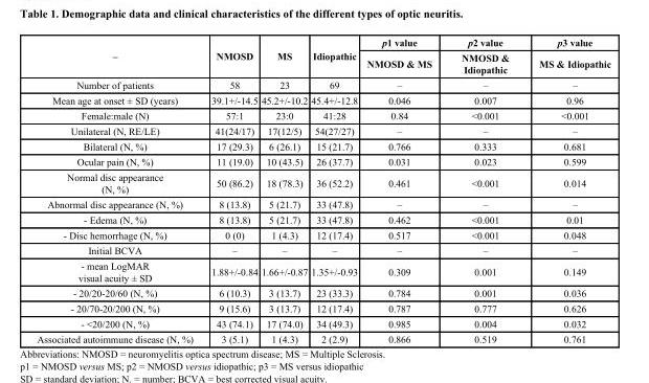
<table><thead><tr><td rowspan="2">–</td><td rowspan="2">NMOSD</td><td rowspan="2">MS</td><td rowspan="2">Idiopathic</td><td rowspan="2">p1 value NMOSD &amp; MS</td><td rowspan="2">p2 value NMOSD &amp; Idiopathic</td><td rowspan="2">p3 value MS &amp; Idiopathic</td></tr><tr></tr></thead><tbody><tr><td>Number of patients</td><td>58</td><td>23</td><td>69</td><td>–</td><td>–</td><td>–</td></tr><tr><td>Mean age at onset ± SD (years)</td><td>39.1+/-14.5</td><td>45.2+/-10.2</td><td>45.4+/-12.8</td><td>0.046</td><td>0.007</td><td>0.96</td></tr><tr><td>Female:male (N)</td><td>57:1</td><td>23:0</td><td>41:28</td><td>0.84</td><td>&lt;0.001</td><td>&lt;0.001</td></tr><tr><td>Unilateral (N, RE/LE)</td><td>41(24/17)</td><td>17(12/5)</td><td>54(27/27)</td><td>–</td><td>–</td><td>–</td></tr><tr><td>Bilateral (N, %)</td><td>17 (29.3)</td><td>6 (26.1)</td><td>15 (21.7)</td><td>0.766</td><td>0.333</td><td>0.681</td></tr><tr><td>Ocular pain (N, %)</td><td>11 (19.0)</td><td>10 (43.5)</td><td>26 (37.7)</td><td>0.031</td><td>0.023</td><td>0.599</td></tr><tr><td>Normal disc appearance (N, %)</td><td>50 (86.2)</td><td>18 (78.3)</td><td>36 (52.2)</td><td>0.461</td><td>&lt;0.001</td><td>0.014</td></tr><tr><td>Abnormal disc appearance (N, %)</td><td>8 (13.8)</td><td>5 (21.7)</td><td>33 (47.8)</td><td>–</td><td>–</td><td>–</td></tr><tr><td>- Edema (N, %)</td><td>8 (13.8)</td><td>5 (21.7)</td><td>33 (47.8)</td><td>0.462</td><td>&lt;0.001</td><td>0.01</td></tr><tr><td>- Disc hemorrhage (N, %)</td><td>0 (0)</td><td>1 (4.3)</td><td>12 (17.4)</td><td>0.517</td><td>&lt;0.001</td><td>0.048</td></tr><tr><td>Initial BCVA</td><td>–</td><td>–</td><td>–</td><td>–</td><td>–</td><td>–</td></tr><tr><td>- mean LogMAR visual acuity ± SD</td><td>1.88+/-0.84</td><td>1.66+/-0.87</td><td>1.35+/-0.93</td><td>0.309</td><td>0.001</td><td>0.149</td></tr><tr><td>- 20/20-20/60 (N, %)</td><td>6 (10.3)</td><td>3 (13.7)</td><td>23 (33.3)</td><td>0.784</td><td>0.001</td><td>0.036</td></tr><tr><td>- 20/70-20/200 (N, %)</td><td>9 (15.6)</td><td>3 (13.7)</td><td>12 (17.4)</td><td>0.787</td><td>0.777</td><td>0.626</td></tr><tr><td>- &lt;20/200 (N, %)</td><td>43 (74.1)</td><td>17 (74.0)</td><td>34 (49.3)</td><td>0.985</td><td>0.004</td><td>0.032</td></tr><tr><td>Associated autoimmune disease (N, %)</td><td>3 (5.1)</td><td>1 (4.3)</td><td>2 (2.9)</td><td>0.866</td><td>0.519</td><td>0.761</td></tr></tbody></table>